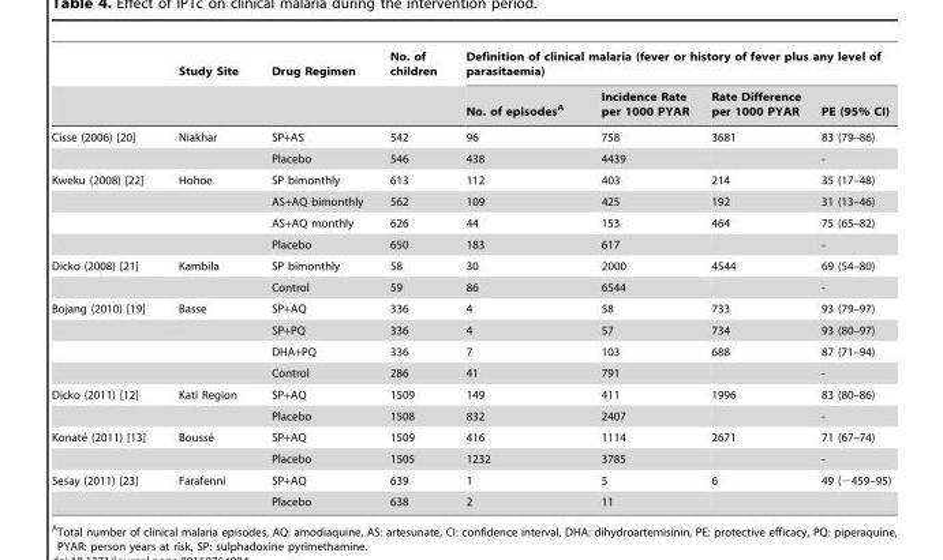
<table><thead><tr><td rowspan="2"></td><td rowspan="2">Study Site</td><td rowspan="2">Drug Regimen</td><td rowspan="2">No. of children</td><td colspan="4">Definition of clinical malaria (fever or history of fever plus any level of parasitaemia)</td></tr><tr><td>No. of episodes<sup>A</sup></td><td>Incidence Rate per 1000 PYAR</td><td>Rate Difference per 1000 PYAR</td><td>PE (95% CI)</td></tr></thead><tbody><tr><td rowspan="2">Cisse (2006) [20]</td><td>Niakhar</td><td>SP+AS</td><td>542</td><td>96</td><td>758</td><td>3681</td><td>83 (79–86)</td></tr><tr><td></td><td>Placebo</td><td>546</td><td>438</td><td>4439</td><td></td><td>-</td></tr><tr><td rowspan="4">Kweku (2008) [22]</td><td>Hohoe</td><td>SP bimonthly</td><td>613</td><td>112</td><td>403</td><td>214</td><td>35 (17–48)</td></tr><tr><td></td><td>AS+AQ bimonthly</td><td>562</td><td>109</td><td>425</td><td>192</td><td>31 (13–46)</td></tr><tr><td></td><td>AS+AQ monthly</td><td>626</td><td>44</td><td>153</td><td>464</td><td>75 (65–82)</td></tr><tr><td></td><td>Placebo</td><td>650</td><td>183</td><td>617</td><td></td><td>-</td></tr><tr><td rowspan="2">Dicko (2008) [21]</td><td>Kambila</td><td>SP bimonthly</td><td>58</td><td>30</td><td>2000</td><td>4544</td><td>69 (54–80)</td></tr><tr><td></td><td>Control</td><td>59</td><td>86</td><td>6544</td><td></td><td>-</td></tr><tr><td rowspan="4">Bojang (2010) [19]</td><td>Basse</td><td>SP+AQ</td><td>336</td><td>4</td><td>58</td><td>733</td><td>93 (79–97)</td></tr><tr><td></td><td>SP+PQ</td><td>336</td><td>4</td><td>57</td><td>734</td><td>93 (80–97)</td></tr><tr><td></td><td>DHA+PQ</td><td>336</td><td>7</td><td>103</td><td>688</td><td>87 (71–94)</td></tr><tr><td></td><td>Control</td><td>286</td><td>41</td><td>791</td><td></td><td>-</td></tr><tr><td rowspan="2">Dicko (2011) [12]</td><td>Kati Region</td><td>SP+AQ</td><td>1509</td><td>149</td><td>411</td><td>1996</td><td>83 (80–86)</td></tr><tr><td></td><td>Placebo</td><td>1508</td><td>832</td><td>2407</td><td></td><td>-</td></tr><tr><td rowspan="2">Konate´ (2011) [13]</td><td>Bousse´</td><td>SP+AQ</td><td>1509</td><td>416</td><td>1114</td><td>2671</td><td>71 (67–74)</td></tr><tr><td></td><td>Placebo</td><td>1505</td><td>1232</td><td>3785</td><td></td><td>-</td></tr><tr><td rowspan="2">Sesay (2011) [23]</td><td>Farafenni</td><td>SP+AQ</td><td>639</td><td>1</td><td>5</td><td>6</td><td>49 (−459–95)</td></tr><tr><td></td><td>Placebo</td><td>638</td><td>2</td><td>11</td><td></td><td></td></tr></tbody></table>